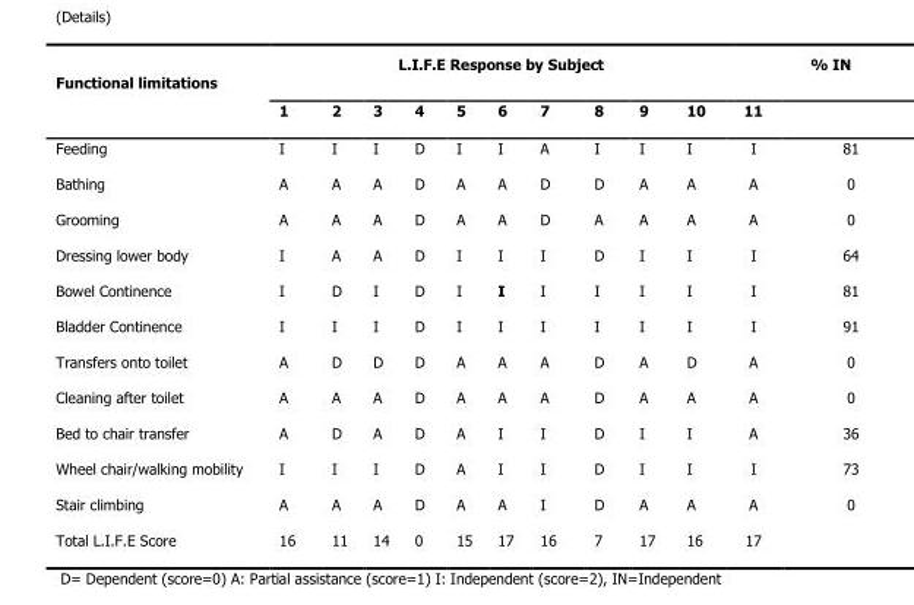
<table><thead><tr><td rowspan="2">Functional limitations</td><td colspan="11">L.I.F.E Response by Subject</td><td rowspan="2">% IN</td></tr><tr><td>1</td><td>2</td><td>3</td><td>4</td><td>5</td><td>6</td><td>7</td><td>8</td><td>9</td><td>10</td><td>11</td></tr></thead><tbody><tr><td>Feeding</td><td>I</td><td>I</td><td>I</td><td>D</td><td>I</td><td>I</td><td>A</td><td>I</td><td>I</td><td>I</td><td>I</td><td>81</td></tr><tr><td>Bathing</td><td>A</td><td>A</td><td>A</td><td>D</td><td>A</td><td>A</td><td>D</td><td>D</td><td>A</td><td>A</td><td>A</td><td>0</td></tr><tr><td>Grooming</td><td>A</td><td>A</td><td>A</td><td>D</td><td>A</td><td>A</td><td>D</td><td>A</td><td>A</td><td>A</td><td>A</td><td>0</td></tr><tr><td>Dressing lower body</td><td>I</td><td>A</td><td>A</td><td>D</td><td>I</td><td>I</td><td>I</td><td>D</td><td>I</td><td>I</td><td>I</td><td>64</td></tr><tr><td>Bowel Continence</td><td>I</td><td>D</td><td>I</td><td>D</td><td>I</td><td>I</td><td>I</td><td>I</td><td>I</td><td>I</td><td>I</td><td>81</td></tr><tr><td>Bladder Continence</td><td>I</td><td>I</td><td>I</td><td>D</td><td>I</td><td>I</td><td>I</td><td>I</td><td>I</td><td>I</td><td>I</td><td>91</td></tr><tr><td>Transfers onto toilet</td><td>A</td><td>D</td><td>D</td><td>D</td><td>A</td><td>A</td><td>A</td><td>D</td><td>A</td><td>D</td><td>A</td><td>0</td></tr><tr><td>Cleaning after toilet</td><td>A</td><td>A</td><td>A</td><td>D</td><td>A</td><td>A</td><td>A</td><td>D</td><td>A</td><td>A</td><td>A</td><td>0</td></tr><tr><td>Bed to chair transfer</td><td>A</td><td>D</td><td>A</td><td>D</td><td>A</td><td>I</td><td>I</td><td>D</td><td>I</td><td>I</td><td>A</td><td>36</td></tr><tr><td>Wheel chair/walking mobility</td><td>I</td><td>I</td><td>I</td><td>D</td><td>A</td><td>I</td><td>I</td><td>D</td><td>I</td><td>I</td><td>I</td><td>73</td></tr><tr><td>Stair climbing</td><td>A</td><td>A</td><td>A</td><td>D</td><td>A</td><td>A</td><td>I</td><td>D</td><td>A</td><td>A</td><td>A</td><td>0</td></tr><tr><td>Total L.I.F.E Score</td><td>16</td><td>11</td><td>14</td><td>0</td><td>15</td><td>17</td><td>16</td><td>7</td><td>17</td><td>16</td><td>17</td><td></td></tr></tbody></table>